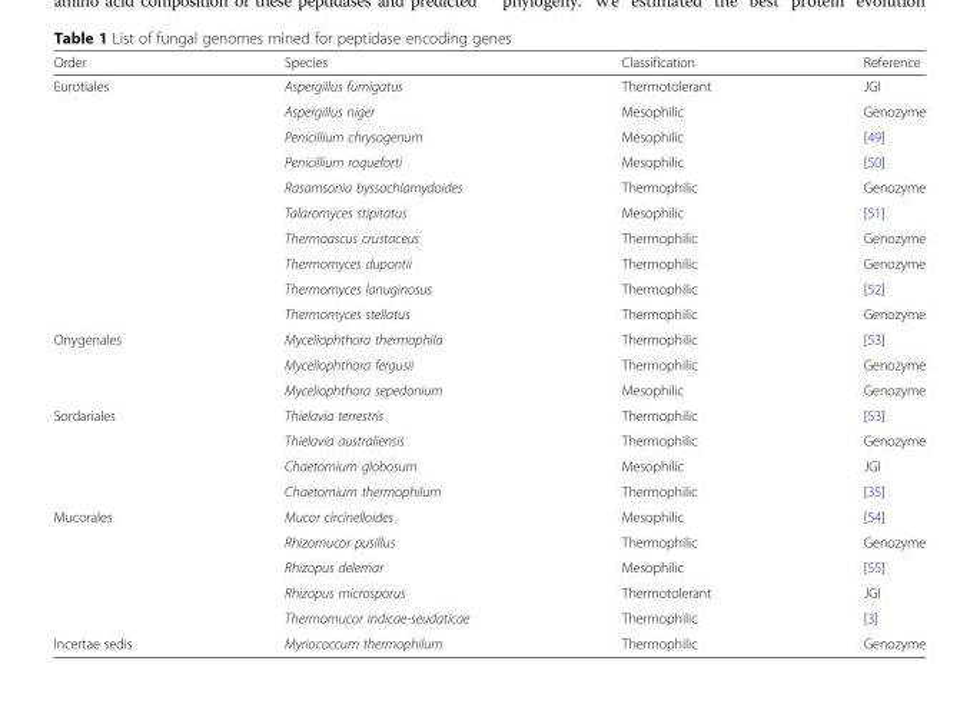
<table><thead><tr><td>Order</td><td>Species</td><td>Classification</td><td>Reference</td></tr></thead><tbody><tr><td rowspan="10">Eurotiales</td><td>Aspergillus fumigatus</td><td>Thermotolerant</td><td>JGI</td></tr><tr><td>Aspergillus niger</td><td>Mesophilic</td><td>Genozyme</td></tr><tr><td>Penicillium chrysogenum</td><td>Mesophilic</td><td>[49]</td></tr><tr><td>Penicillium roqueforti</td><td>Mesophilic</td><td>[50]</td></tr><tr><td>Rasamsonia byssochlamydoides</td><td>Thermophilic</td><td>Genozyme</td></tr><tr><td>Talaromyces stipitatus</td><td>Mesophilic</td><td>[51]</td></tr><tr><td>Thermoascus crustaceus</td><td>Thermophilic</td><td>Genozyme</td></tr><tr><td>Thermomyces dupontii</td><td>Thermophilic</td><td>Genozyme</td></tr><tr><td>Thermomyces lanuginosus</td><td>Thermophilic</td><td>[52]</td></tr><tr><td>Thermomyces stellatus</td><td>Thermophilic</td><td>Genozyme</td></tr><tr><td rowspan="3">Onygenales</td><td>Myceliophthora thermophila</td><td>Thermophilic</td><td>[53]</td></tr><tr><td>Myceliophthora fergusii</td><td>Thermophilic</td><td>Genozyme</td></tr><tr><td>Myceliophthora sepedonium</td><td>Mesophilic</td><td>Genozyme</td></tr><tr><td rowspan="4">Sordariales</td><td>Thielavia terrestris</td><td>Thermophilic</td><td>[53]</td></tr><tr><td>Thielavia australiensis</td><td>Thermophilic</td><td>Genozyme</td></tr><tr><td>Chaetomium globosum</td><td>Mesophilic</td><td>JGI</td></tr><tr><td>Chaetomium thermophilum</td><td>Thermophilic</td><td>[35]</td></tr><tr><td rowspan="5">Mucorales</td><td>Mucor circinelloides</td><td>Mesophilic</td><td>[54]</td></tr><tr><td>Rhizomucor pusillus</td><td>Thermophilic</td><td>Genozyme</td></tr><tr><td>Rhizopus delemar</td><td>Mesophilic</td><td>[55]</td></tr><tr><td>Rhizopus microsporus</td><td>Thermotolerant</td><td>JGI</td></tr><tr><td>Thermomucor indicae-seudaticae</td><td>Thermophilic</td><td>[3]</td></tr><tr><td>Incertae sedis</td><td>Myriococcum thermophilum</td><td>Thermophilic</td><td>Genozyme</td></tr></tbody></table>